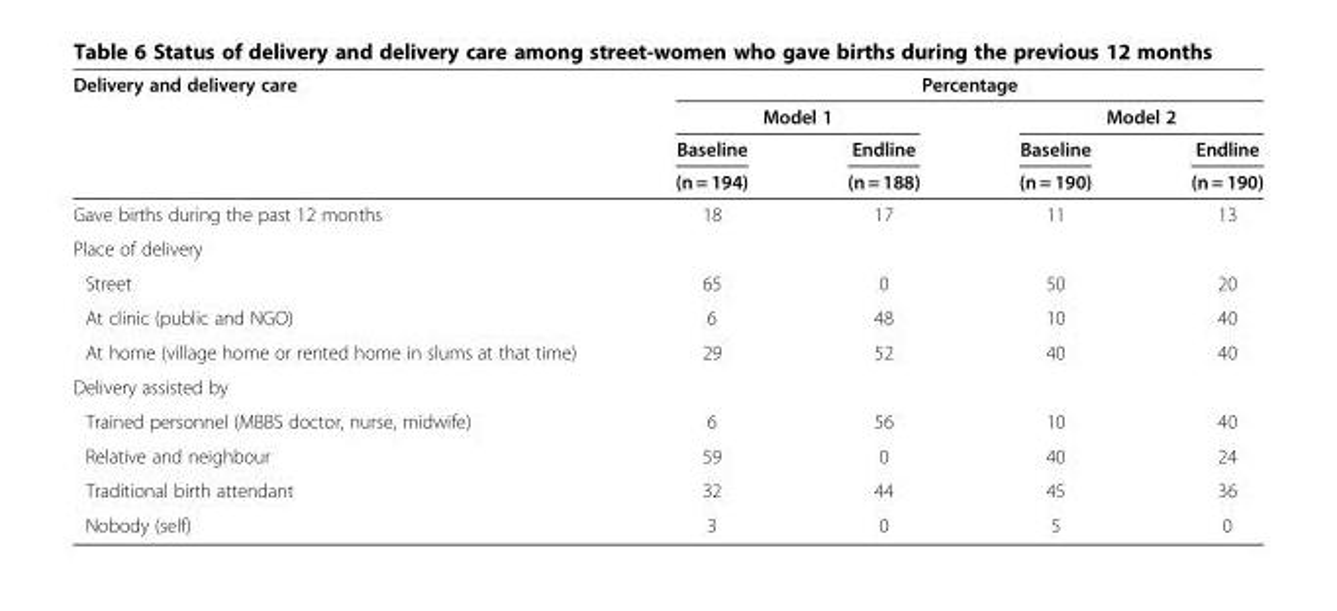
<table><thead><tr><td rowspan="4">Delivery and delivery care</td><td colspan="4">Percentage</td></tr><tr><td colspan="2">Model 1</td><td colspan="2">Model 2</td></tr><tr><td rowspan="2">Baseline (n = 194)</td><td rowspan="2">Endline (n = 188)</td><td rowspan="2">Baseline (n = 190)</td><td rowspan="2">Endline (n = 190)</td></tr><tr></tr></thead><tbody><tr><td>Gave births during the past 12 months</td><td>18</td><td>17</td><td>11</td><td>13</td></tr><tr><td colspan="5">Place of delivery</td></tr><tr><td>Street</td><td>65</td><td>0</td><td>50</td><td>20</td></tr><tr><td>At clinic (public and NGO)</td><td>6</td><td>48</td><td>10</td><td>40</td></tr><tr><td>At home (village home or rented home in slums at that time)</td><td>29</td><td>52</td><td>40</td><td>40</td></tr><tr><td colspan="5">Delivery assisted by</td></tr><tr><td>Trained personnel (MBBS doctor, nurse, midwife)</td><td>6</td><td>56</td><td>10</td><td>40</td></tr><tr><td>Relative and neighbour</td><td>59</td><td>0</td><td>40</td><td>24</td></tr><tr><td>Traditional birth attendant</td><td>32</td><td>44</td><td>45</td><td>36</td></tr><tr><td>Nobody (self)</td><td>3</td><td>0</td><td>5</td><td>0</td></tr></tbody></table>